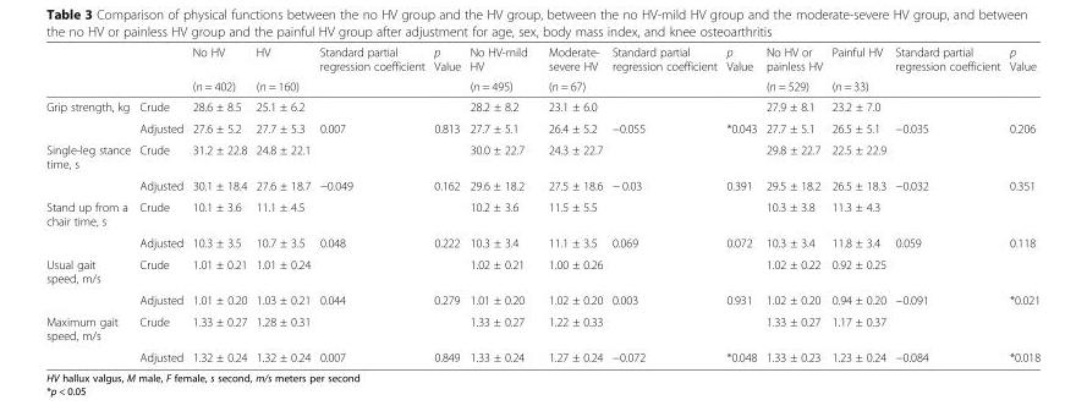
<table><thead><tr><td rowspan="2"></td><td rowspan="2"></td><td rowspan="2">No HV (n = 402)</td><td rowspan="2">HV (n = 160)</td><td rowspan="2">Standard partial regression coefficient</td><td rowspan="2">p Value</td><td rowspan="2">No HV-mild HV (n = 495)</td><td rowspan="2">Moderate- severe HV (n = 67)</td><td rowspan="2">Standard partial regression coefficient</td><td rowspan="2">p Value</td><td rowspan="2">No HV or painless HV (n = 529)</td><td rowspan="2">Painful HV (n = 33)</td><td rowspan="2">Standard partial regression coefficient</td><td rowspan="2">p Value</td></tr><tr></tr></thead><tbody><tr><td rowspan="2">Grip strength, kg</td><td>Crude</td><td>28.6 ± 8.5</td><td>25.1 ± 6.2</td><td></td><td></td><td>28.2 ± 8.2</td><td>23.1 ± 6.0</td><td></td><td></td><td>27.9 ± 8.1</td><td>23.2 ± 7.0</td><td></td><td></td></tr><tr><td>Adjusted</td><td>27.6 ± 5.2</td><td>27.7 ± 5.3</td><td>0.007</td><td>0.813</td><td>27.7 ± 5.1</td><td>26.4 ± 5.2</td><td>−0.055</td><td>*0.043</td><td>27.7 ± 5.1</td><td>26.5 ± 5.1</td><td>−0.035</td><td>0.206</td></tr><tr><td rowspan="2">Single-leg stance time, s</td><td>Crude</td><td>31.2 ± 22.8</td><td>24.8 ± 22.1</td><td></td><td></td><td>30.0 ± 22.7</td><td>24.3 ± 22.7</td><td></td><td></td><td>29.8 ± 22.7</td><td>22.5 ± 22.9</td><td></td><td></td></tr><tr><td>Adjusted</td><td>30.1 ± 18.4</td><td>27.6 ± 18.7</td><td>−0.049</td><td>0.162</td><td>29.6 ± 18.2</td><td>27.5 ± 18.6</td><td>− 0.03</td><td>0.391</td><td>29.5 ± 18.2</td><td>26.5 ± 18.3</td><td>−0.032</td><td>0.351</td></tr><tr><td rowspan="2">Stand up from a chair time, s</td><td>Crude</td><td>10.1 ± 3.6</td><td>11.1 ± 4.5</td><td></td><td></td><td>10.2 ± 3.6</td><td>11.5 ± 5.5</td><td></td><td></td><td>10.3 ± 3.8</td><td>11.3 ± 4.3</td><td></td><td></td></tr><tr><td>Adjusted</td><td>10.3 ± 3.5</td><td>10.7 ± 3.5</td><td>0.048</td><td>0.222</td><td>10.3 ± 3.4</td><td>11.1 ± 3.5</td><td>0.069</td><td>0.072</td><td>10.3 ± 3.4</td><td>11.8 ± 3.4</td><td>0.059</td><td>0.118</td></tr><tr><td rowspan="2">Usual gait speed, m/s</td><td>Crude</td><td>1.01 ± 0.21</td><td>1.01 ± 0.24</td><td></td><td></td><td>1.02 ± 0.21</td><td>1.00 ± 0.26</td><td></td><td></td><td>1.02 ± 0.22</td><td>0.92 ± 0.25</td><td></td><td></td></tr><tr><td>Adjusted</td><td>1.01 ± 0.20</td><td>1.03 ± 0.21</td><td>0.044</td><td>0.279</td><td>1.01 ± 0.20</td><td>1.02 ± 0.20</td><td>0.003</td><td>0.931</td><td>1.02 ± 0.20</td><td>0.94 ± 0.20</td><td>−0.091</td><td>*0.021</td></tr><tr><td rowspan="2">Maximum gait speed, m/s</td><td>Crude</td><td>1.33 ± 0.27</td><td>1.28 ± 0.31</td><td></td><td></td><td>1.33 ± 0.27</td><td>1.22 ± 0.33</td><td></td><td></td><td>1.33 ± 0.27</td><td>1.17 ± 0.37</td><td></td><td></td></tr><tr><td>Adjusted</td><td>1.32 ± 0.24</td><td>1.32 ± 0.24</td><td>0.007</td><td>0.849</td><td>1.33 ± 0.24</td><td>1.27 ± 0.24</td><td>−0.072</td><td>*0.048</td><td>1.33 ± 0.23</td><td>1.23 ± 0.24</td><td>−0.084</td><td>*0.018</td></tr></tbody></table>